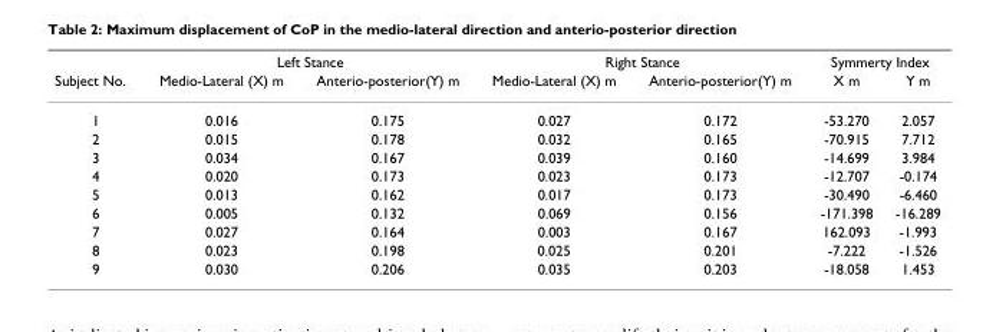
<table><thead><tr><td rowspan="2">Subject No.</td><td colspan="2">Left Stance</td><td colspan="2">Right Stance</td><td colspan="2">Symmerty Index</td></tr><tr><td>Medio-Lateral (X) m</td><td>Anterio-posterior(Y) m</td><td>Medio-Lateral (X) m</td><td>Anterio-posterior(Y) m</td><td>X m</td><td>Y m</td></tr></thead><tbody><tr><td>1</td><td>0.016</td><td>0.175</td><td>0.027</td><td>0.172</td><td>-53.270</td><td>2.057</td></tr><tr><td>2</td><td>0.015</td><td>0.178</td><td>0.032</td><td>0.165</td><td>-70.915</td><td>7.712</td></tr><tr><td>3</td><td>0.034</td><td>0.167</td><td>0.039</td><td>0.160</td><td>-14.699</td><td>3.984</td></tr><tr><td>4</td><td>0.020</td><td>0.173</td><td>0.023</td><td>0.173</td><td>-12.707</td><td>-0.174</td></tr><tr><td>5</td><td>0.013</td><td>0.162</td><td>0.017</td><td>0.173</td><td>-30.490</td><td>-6.460</td></tr><tr><td>6</td><td>0.005</td><td>0.132</td><td>0.069</td><td>0.156</td><td>-171.398</td><td>-16.289</td></tr><tr><td>7</td><td>0.027</td><td>0.164</td><td>0.003</td><td>0.167</td><td>162.093</td><td>-1.993</td></tr><tr><td>8</td><td>0.023</td><td>0.198</td><td>0.025</td><td>0.201</td><td>-7.222</td><td>-1.526</td></tr><tr><td>9</td><td>0.030</td><td>0.206</td><td>0.035</td><td>0.203</td><td>-18.058</td><td>1.453</td></tr></tbody></table>